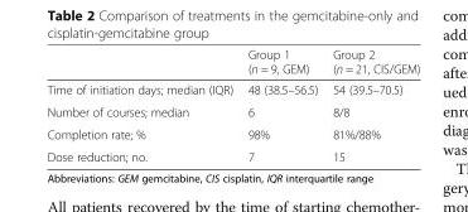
<table><thead><tr><td></td><td>Group 1 (n = 9, GEM)</td><td>Group 2 (n = 21, CIS/GEM)</td></tr></thead><tbody><tr><td>Time of initiation days; median (IQR)</td><td>48 (38.5–56.5)</td><td>54 (39.5–70.5)</td></tr><tr><td>Number of courses; median</td><td>6</td><td>8/8</td></tr><tr><td>Completion rate; %</td><td>98%</td><td>81%/88%</td></tr><tr><td>Dose reduction; no.</td><td>7</td><td>15</td></tr></tbody></table>